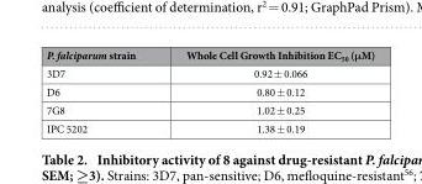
<table><thead><tr><td>P. falciparum strain</td><td>Whole Cell Growth Inhibition EC<sub>50</sub> (μM)</td></tr></thead><tbody><tr><td>3D7</td><td>0.92 ± 0.066</td></tr><tr><td>D6</td><td>0.80 ± 0.12</td></tr><tr><td>7G8</td><td>1.02 ± 0.25</td></tr><tr><td>IPC 5202</td><td>1.38 ± 0.19</td></tr></tbody></table>